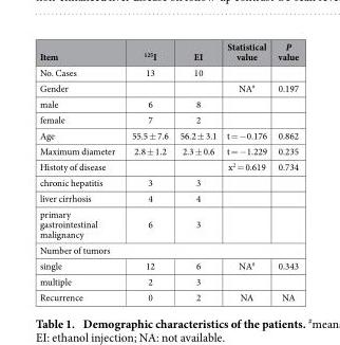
<table><thead><tr><td>Item</td><td><sup>125</sup>I</td><td>EI</td><td>Statistical value</td><td>P value</td></tr></thead><tbody><tr><td>No. Cases</td><td>13</td><td>10</td><td></td><td></td></tr><tr><td>Gender</td><td></td><td></td><td>NA<sup>#</sup></td><td>0.197</td></tr><tr><td>male</td><td>6</td><td>8</td><td></td><td></td></tr><tr><td>female</td><td>7</td><td>2</td><td></td><td></td></tr><tr><td>Age</td><td>55.5 ± 7.6</td><td>56.2 ± 3.1</td><td>t = − 0.176</td><td>0.862</td></tr><tr><td>Maximum diameter</td><td>2.8 ± 1.2</td><td>2.3 ± 0.6</td><td>t = − 1.229</td><td>0.235</td></tr><tr><td>Histoty of disease</td><td></td><td></td><td>x<sup>2</sup> = 0.619</td><td>0.734</td></tr><tr><td>chronic hepatitis</td><td>3</td><td>3</td><td></td><td></td></tr><tr><td>liver cirrhosis</td><td>4</td><td>4</td><td></td><td></td></tr><tr><td>primary gastrointestinal malignancy</td><td>6</td><td>3</td><td></td><td></td></tr><tr><td colspan="5">Number of tumors</td></tr><tr><td>single</td><td>12</td><td>6</td><td>NA<sup>#</sup></td><td>0.343</td></tr><tr><td>multiple</td><td>2</td><td>3</td><td></td><td></td></tr><tr><td>Recurrence</td><td>0</td><td>2</td><td>NA</td><td>NA</td></tr></tbody></table>